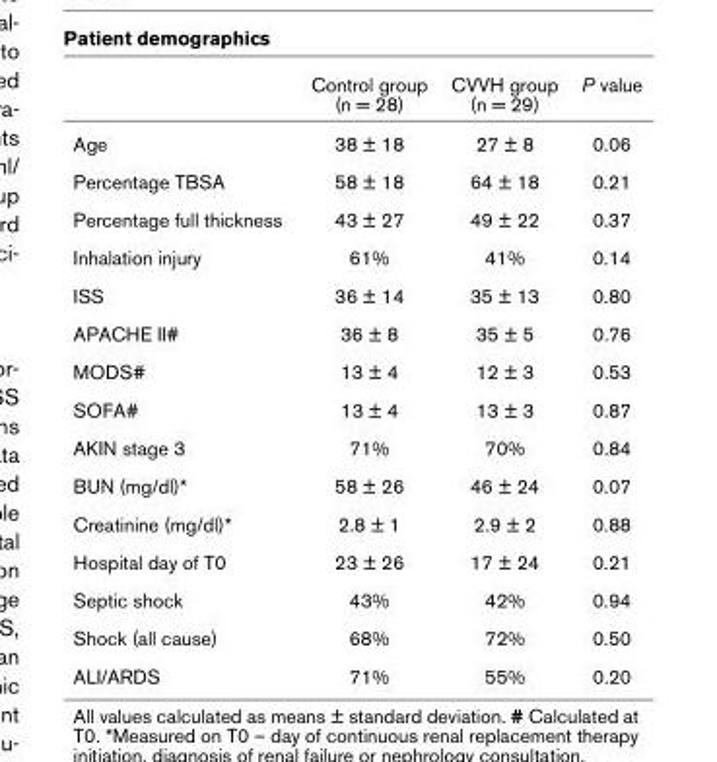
<table><thead><tr><td></td><td>Control group (n = 28)</td><td>CVVH group (n = 29)</td><td>P value</td></tr></thead><tbody><tr><td>Age</td><td>38 ± 18</td><td>27 ± 8</td><td>0.06</td></tr><tr><td>Percentage TBSA</td><td>58 ± 18</td><td>64 ± 18</td><td>0.21</td></tr><tr><td>Percentage full thickness</td><td>43 ± 27</td><td>49 ± 22</td><td>0.37</td></tr><tr><td>Inhalation injury</td><td>61%</td><td>41%</td><td>0.14</td></tr><tr><td>ISS</td><td>36 ± 14</td><td>35 ± 13</td><td>0.80</td></tr><tr><td>APACHE II#</td><td>36 ± 8</td><td>35 ± 5</td><td>0.76</td></tr><tr><td>MODS#</td><td>13 ± 4</td><td>12 ± 3</td><td>0.53</td></tr><tr><td>SOFA#</td><td>13 ± 4</td><td>13 ± 3</td><td>0.87</td></tr><tr><td>AKIN stage 3</td><td>71%</td><td>70%</td><td>0.84</td></tr><tr><td>BUN (mg/dl)*</td><td>58 ± 26</td><td>46 ± 24</td><td>0.07</td></tr><tr><td>Creatinine (mg/dl)*</td><td>2.8 ± 1</td><td>2.9 ± 2</td><td>0.88</td></tr><tr><td>Hospital day of T0</td><td>23 ± 26</td><td>17 ± 24</td><td>0.21</td></tr><tr><td>Septic shock</td><td>43%</td><td>42%</td><td>0.94</td></tr><tr><td>Shock (all cause)</td><td>68%</td><td>72%</td><td>0.50</td></tr><tr><td>ALI/ARDS</td><td>71%</td><td>55%</td><td>0.20</td></tr></tbody></table>